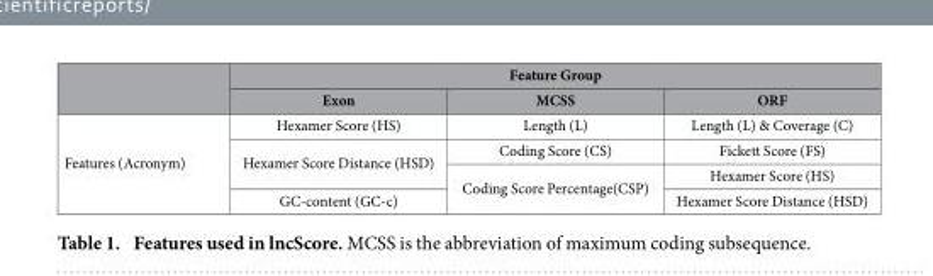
<table><thead><tr><td rowspan="2"></td><td colspan="3">Feature Group</td></tr><tr><td>Exon</td><td>MCSS</td><td>ORF</td></tr></thead><tbody><tr><td rowspan="4">Features (Acronym)</td><td>Hexamer Score (HS)</td><td>Length (L)</td><td>Length (L) &amp; Coverage (C)</td></tr><tr><td rowspan="2">Hexamer Score Distance (HSD)</td><td>Coding Score (CS)</td><td>Fickett Score (FS)</td></tr><tr><td rowspan="2">Coding Score Percentage(CSP)</td><td>Hexamer Score (HS)</td></tr><tr><td>GC-content (GC-c)</td><td>Hexamer Score Distance (HSD)</td></tr></tbody></table>